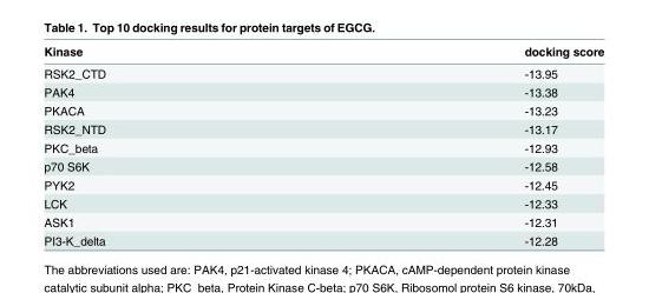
<table><thead><tr><td>Kinase</td><td>docking score</td></tr></thead><tbody><tr><td>RSK2_CTD</td><td>-13.95</td></tr><tr><td>PAK4</td><td>-13.38</td></tr><tr><td>PKACA</td><td>-13.23</td></tr><tr><td>RSK2_NTD</td><td>-13.17</td></tr><tr><td>PKC_beta</td><td>-12.93</td></tr><tr><td>p70 S6K</td><td>-12.58</td></tr><tr><td>PYK2</td><td>-12.45</td></tr><tr><td>LCK</td><td>-12.33</td></tr><tr><td>ASK1</td><td>-12.31</td></tr><tr><td>PI3-K_delta</td><td>-12.28</td></tr></tbody></table>